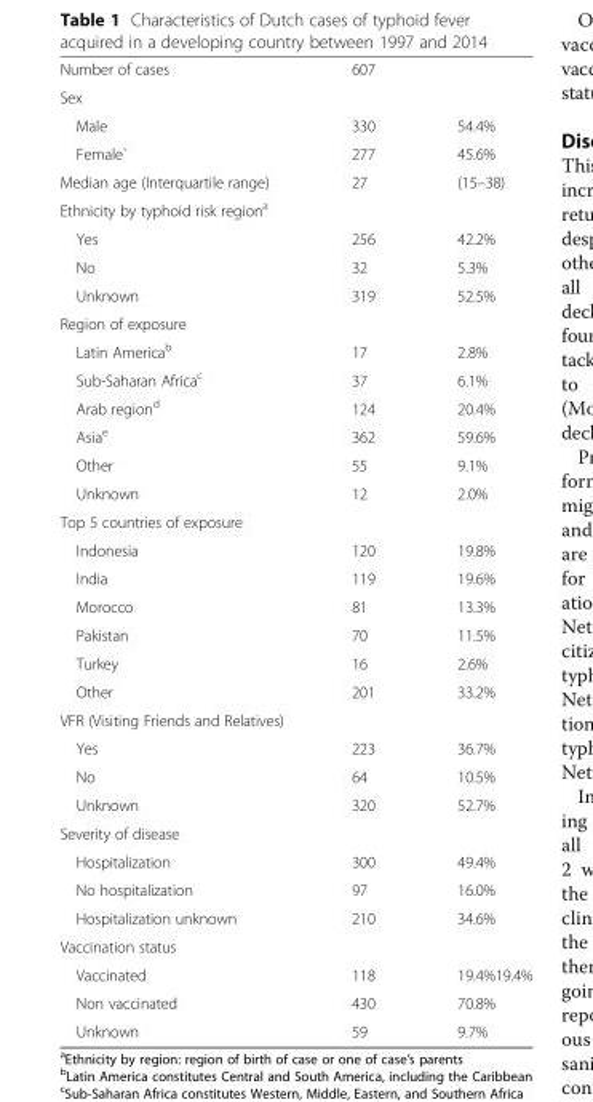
<table><tbody><tr><td>Number of cases</td><td>607</td><td></td></tr><tr><td colspan="3">Sex</td></tr><tr><td>Male</td><td>330</td><td>54.4%</td></tr><tr><td>Female`</td><td>277</td><td>45.6%</td></tr><tr><td>Median age (Interquartile range)</td><td>27</td><td>(15–38)</td></tr><tr><td colspan="3">Ethnicity by typhoid risk region<sup>a</sup></td></tr><tr><td>Yes</td><td>256</td><td>42.2%</td></tr><tr><td>No</td><td>32</td><td>5.3%</td></tr><tr><td>Unknown</td><td>319</td><td>52.5%</td></tr><tr><td colspan="3">Region of exposure</td></tr><tr><td>Latin America<sup>b</sup></td><td>17</td><td>2.8%</td></tr><tr><td>Sub-Saharan Africa<sup>c</sup></td><td>37</td><td>6.1%</td></tr><tr><td>Arab region<sup>d</sup></td><td>124</td><td>20.4%</td></tr><tr><td>Asia<sup>e</sup></td><td>362</td><td>59.6%</td></tr><tr><td>Other</td><td>55</td><td>9.1%</td></tr><tr><td>Unknown</td><td>12</td><td>2.0%</td></tr><tr><td colspan="3">Top 5 countries of exposure</td></tr><tr><td>Indonesia</td><td>120</td><td>19.8%</td></tr><tr><td>India</td><td>119</td><td>19.6%</td></tr><tr><td>Morocco</td><td>81</td><td>13.3%</td></tr><tr><td>Pakistan</td><td>70</td><td>11.5%</td></tr><tr><td>Turkey</td><td>16</td><td>2.6%</td></tr><tr><td>Other</td><td>201</td><td>33.2%</td></tr><tr><td colspan="3">VFR (Visiting Friends and Relatives)</td></tr><tr><td>Yes</td><td>223</td><td>36.7%</td></tr><tr><td>No</td><td>64</td><td>10.5%</td></tr><tr><td>Unknown</td><td>320</td><td>52.7%</td></tr><tr><td colspan="3">Severity of disease</td></tr><tr><td>Hospitalization</td><td>300</td><td>49.4%</td></tr><tr><td>No hospitalization</td><td>97</td><td>16.0%</td></tr><tr><td>Hospitalization unknown</td><td>210</td><td>34.6%</td></tr><tr><td colspan="3">Vaccination status</td></tr><tr><td>Vaccinated</td><td>118</td><td>19.4%19.4%</td></tr><tr><td>Non vaccinated</td><td>430</td><td>70.8%</td></tr><tr><td>Unknown</td><td>59</td><td>9.7%</td></tr></tbody></table>